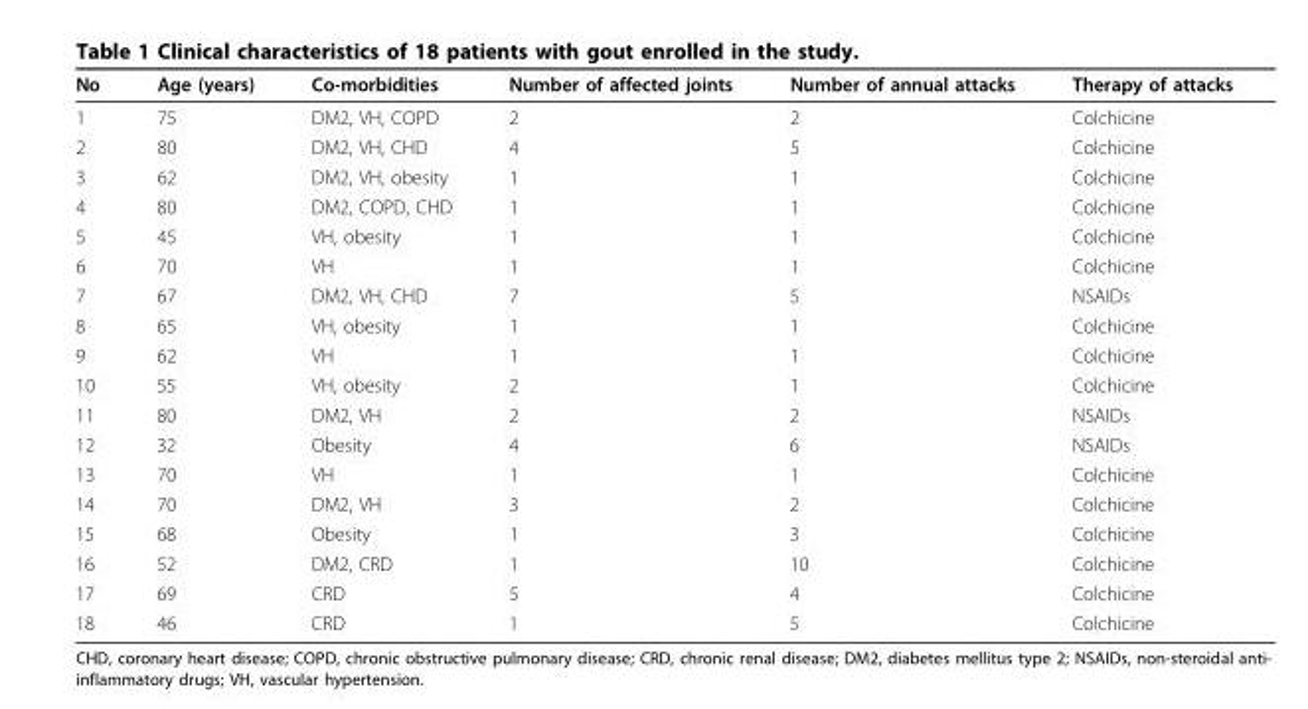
<table><thead><tr><td>No</td><td>Age (years)</td><td>Co-morbidities</td><td>Number of affected joints</td><td>Number of annual attacks</td><td>Therapy of attacks</td></tr></thead><tbody><tr><td>1</td><td>75</td><td>DM2, VH, COPD</td><td>2</td><td>2</td><td>Colchicine</td></tr><tr><td>2</td><td>80</td><td>DM2, VH, CHD</td><td>4</td><td>5</td><td>Colchicine</td></tr><tr><td>3</td><td>62</td><td>DM2, VH, obesity</td><td>1</td><td>1</td><td>Colchicine</td></tr><tr><td>4</td><td>80</td><td>DM2, COPD, CHD</td><td>1</td><td>1</td><td>Colchicine</td></tr><tr><td>5</td><td>45</td><td>VH, obesity</td><td>1</td><td>1</td><td>Colchicine</td></tr><tr><td>6</td><td>70</td><td>VH</td><td>1</td><td>1</td><td>Colchicine</td></tr><tr><td>7</td><td>67</td><td>DM2, VH, CHD</td><td>7</td><td>5</td><td>NSAIDs</td></tr><tr><td>8</td><td>65</td><td>VH, obesity</td><td>1</td><td>1</td><td>Colchicine</td></tr><tr><td>9</td><td>62</td><td>VH</td><td>1</td><td>1</td><td>Colchicine</td></tr><tr><td>10</td><td>55</td><td>VH, obesity</td><td>2</td><td>1</td><td>Colchicine</td></tr><tr><td>11</td><td>80</td><td>DM2, VH</td><td>2</td><td>2</td><td>NSAIDs</td></tr><tr><td>12</td><td>32</td><td>Obesity</td><td>4</td><td>6</td><td>NSAIDs</td></tr><tr><td>13</td><td>70</td><td>VH</td><td>1</td><td>1</td><td>Colchicine</td></tr><tr><td>14</td><td>70</td><td>DM2, VH</td><td>3</td><td>2</td><td>Colchicine</td></tr><tr><td>15</td><td>68</td><td>Obesity</td><td>1</td><td>3</td><td>Colchicine</td></tr><tr><td>16</td><td>52</td><td>DM2, CRD</td><td>1</td><td>10</td><td>Colchicine</td></tr><tr><td>17</td><td>69</td><td>CRD</td><td>5</td><td>4</td><td>Colchicine</td></tr><tr><td>18</td><td>46</td><td>CRD</td><td>1</td><td>5</td><td>Colchicine</td></tr></tbody></table>